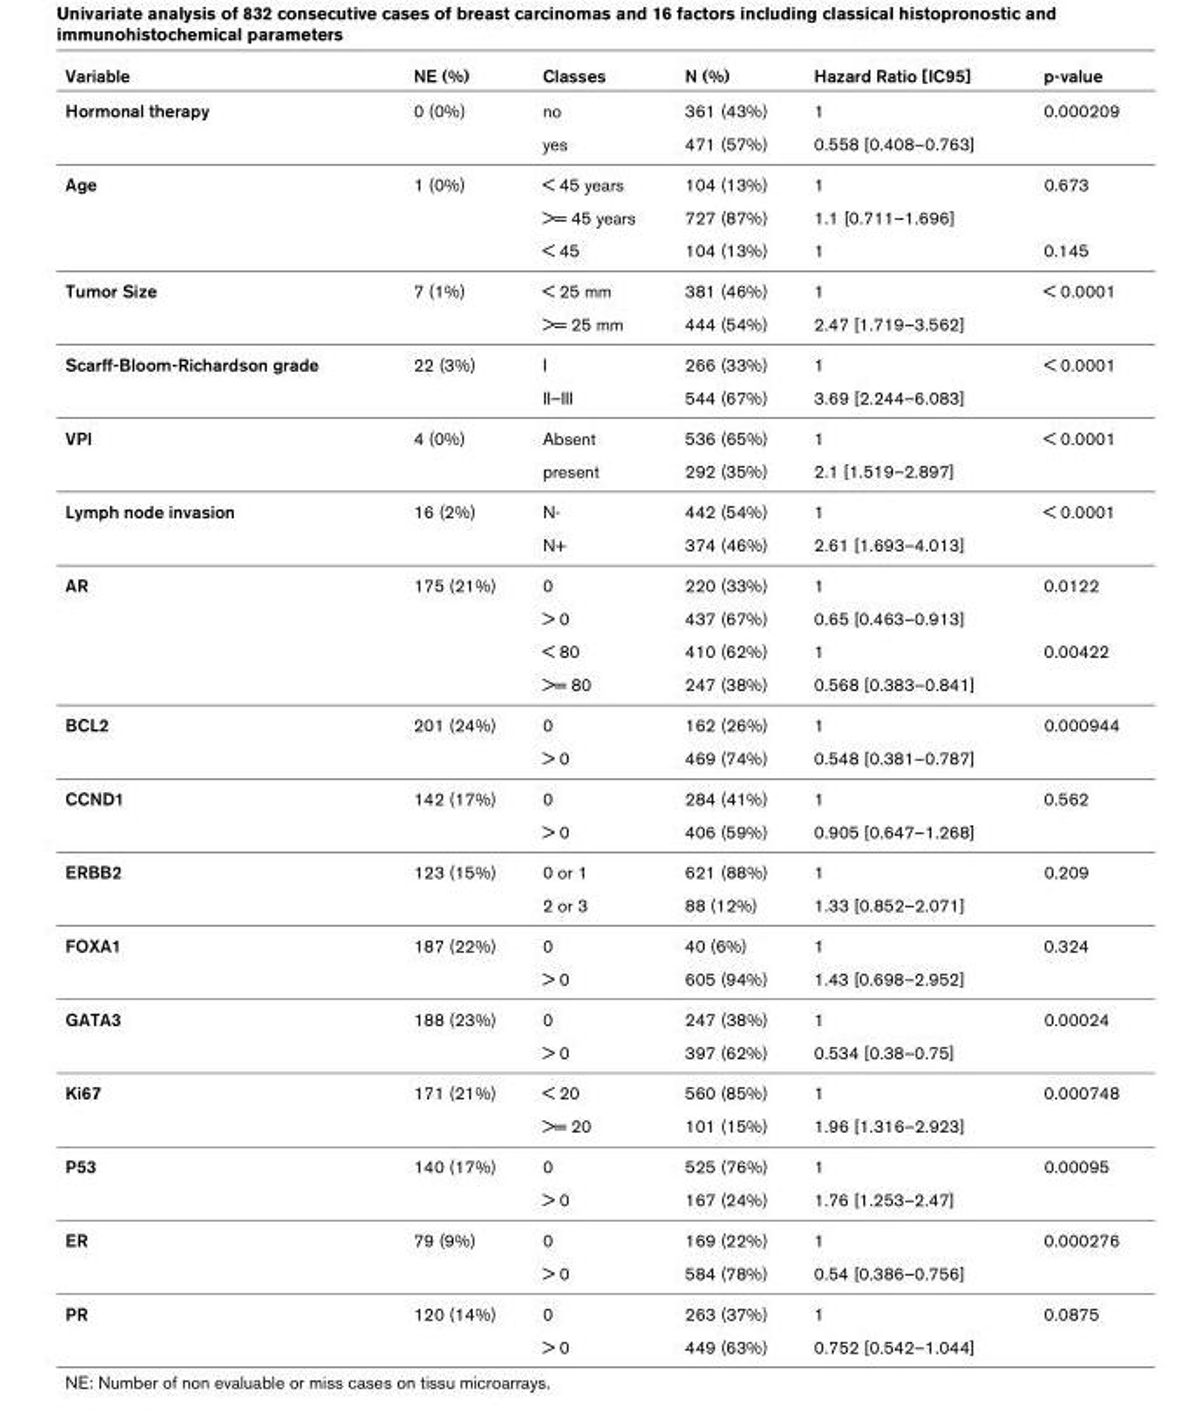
<table><thead><tr><td>Variable</td><td>NE (%)</td><td>Classes</td><td>N (%)</td><td>Hazard Ratio [IC95]</td><td>p-value</td></tr></thead><tbody><tr><td rowspan="2">Hormonal therapy</td><td>0 (0%)</td><td>no</td><td>361 (43%)</td><td>1</td><td>0.000209</td></tr><tr><td></td><td>yes</td><td>471 (57%)</td><td>0.558 [0.408–0.763]</td><td></td></tr><tr><td rowspan="3">Age</td><td>1 (0%)</td><td>&lt; 45 years</td><td>104 (13%)</td><td>1</td><td>0.673</td></tr><tr><td></td><td>&gt;= 45 years</td><td>727 (87%)</td><td>1.1 [0.711–1.696]</td><td></td></tr><tr><td></td><td>&lt; 45</td><td>104 (13%)</td><td>1</td><td>0.145</td></tr><tr><td rowspan="2">Tumor Size</td><td>7 (1%)</td><td>&lt; 25 mm</td><td>381 (46%)</td><td>1</td><td>&lt; 0.0001</td></tr><tr><td></td><td>&gt;= 25 mm</td><td>444 (54%)</td><td>2.47 [1.719–3.562]</td><td></td></tr><tr><td rowspan="2">Scarff-Bloom-Richardson grade</td><td>22 (3%)</td><td>I</td><td>266 (33%)</td><td>1</td><td>&lt; 0.0001</td></tr><tr><td></td><td>II–III</td><td>544 (67%)</td><td>3.69 [2.244–6.083]</td><td></td></tr><tr><td rowspan="2">VPI</td><td>4 (0%)</td><td>Absent</td><td>536 (65%)</td><td>1</td><td>&lt; 0.0001</td></tr><tr><td></td><td>present</td><td>292 (35%)</td><td>2.1 [1.519–2.897]</td><td></td></tr><tr><td rowspan="2">Lymph node invasion</td><td>16 (2%)</td><td>N-</td><td>442 (54%)</td><td>1</td><td>&lt; 0.0001</td></tr><tr><td></td><td>N+</td><td>374 (46%)</td><td>2.61 [1.693–4.013]</td><td></td></tr><tr><td rowspan="4">AR</td><td>175 (21%)</td><td>0</td><td>220 (33%)</td><td>1</td><td>0.0122</td></tr><tr><td></td><td>&gt; 0</td><td>437 (67%)</td><td>0.65 [0.463–0.913]</td><td></td></tr><tr><td></td><td>&lt; 80</td><td>410 (62%)</td><td>1</td><td>0.00422</td></tr><tr><td></td><td>&gt;= 80</td><td>247 (38%)</td><td>0.568 [0.383–0.841]</td><td></td></tr><tr><td rowspan="2">BCL2</td><td>201 (24%)</td><td>0</td><td>162 (26%)</td><td>1</td><td>0.000944</td></tr><tr><td></td><td>&gt; 0</td><td>469 (74%)</td><td>0.548 [0.381–0.787]</td><td></td></tr><tr><td rowspan="2">CCND1</td><td>142 (17%)</td><td>0</td><td>284 (41%)</td><td>1</td><td>0.562</td></tr><tr><td></td><td>&gt; 0</td><td>406 (59%)</td><td>0.905 [0.647–1.268]</td><td></td></tr><tr><td rowspan="2">ERBB2</td><td>123 (15%)</td><td>0 or 1</td><td>621 (88%)</td><td>1</td><td>0.209</td></tr><tr><td></td><td>2 or 3</td><td>88 (12%)</td><td>1.33 [0.852–2.071]</td><td></td></tr><tr><td rowspan="2">FOXA1</td><td>187 (22%)</td><td>0</td><td>40 (6%)</td><td>1</td><td>0.324</td></tr><tr><td></td><td>&gt; 0</td><td>605 (94%)</td><td>1.43 [0.698–2.952]</td><td></td></tr><tr><td rowspan="2">GATA3</td><td>188 (23%)</td><td>0</td><td>247 (38%)</td><td>1</td><td>0.00024</td></tr><tr><td></td><td>&gt; 0</td><td>397 (62%)</td><td>0.534 [0.38–0.75]</td><td></td></tr><tr><td rowspan="2">Ki67</td><td>171 (21%)</td><td>&lt; 20</td><td>560 (85%)</td><td>1</td><td>0.000748</td></tr><tr><td></td><td>&gt;= 20</td><td>101 (15%)</td><td>1.96 [1.316–2.923]</td><td></td></tr><tr><td rowspan="2">P53</td><td>140 (17%)</td><td>0</td><td>525 (76%)</td><td>1</td><td>0.00095</td></tr><tr><td></td><td>&gt; 0</td><td>167 (24%)</td><td>1.76 [1.253–2.47]</td><td></td></tr><tr><td rowspan="2">ER</td><td>79 (9%)</td><td>0</td><td>169 (22%)</td><td>1</td><td>0.000276</td></tr><tr><td></td><td>&gt; 0</td><td>584 (78%)</td><td>0.54 [0.386–0.756]</td><td></td></tr><tr><td rowspan="2">PR</td><td>120 (14%)</td><td>0</td><td>263 (37%)</td><td>1</td><td>0.0875</td></tr><tr><td></td><td>&gt; 0</td><td>449 (63%)</td><td>0.752 [0.542–1.044]</td><td></td></tr></tbody></table>